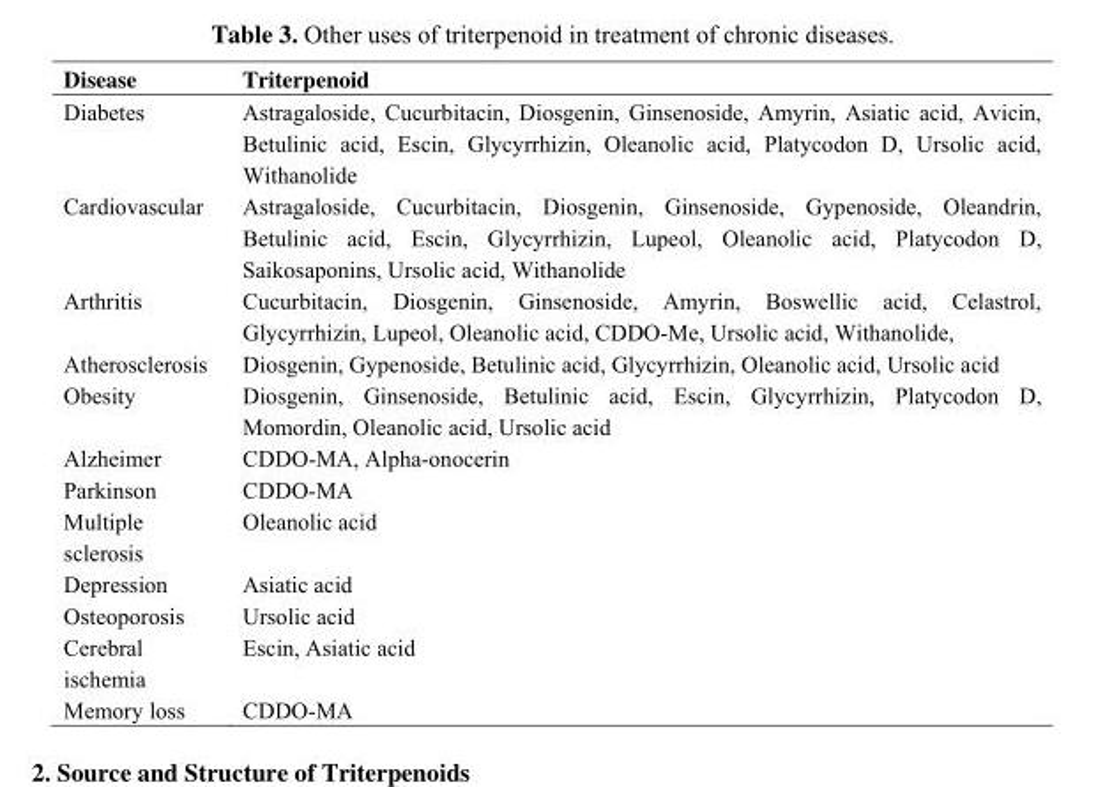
<table><thead><tr><td>Disease</td><td>Triterpenoid</td></tr></thead><tbody><tr><td>Diabetes</td><td>Astragaloside, Cucurbitacin, Diosgenin, Ginsenoside, Amyrin, Asiatic acid, Avicin, Betulinic acid, Escin, Glycyrrhizin, Oleanolic acid, Platycodon D, Ursolic acid, Withanolide</td></tr><tr><td>Cardiovascular</td><td>Astragaloside, Cucurbitacin, Diosgenin, Ginsenoside, Gypenoside, Oleandrin, Betulinic acid, Escin, Glycyrrhizin, Lupeol, Oleanolic acid, Platycodon D, Saikosaponins, Ursolic acid, Withanolide</td></tr><tr><td>Arthritis</td><td>Cucurbitacin, Diosgenin, Ginsenoside, Amyrin, Boswellic acid, Celastrol, Glycyrrhizin, Lupeol, Oleanolic acid, CDDO-Me, Ursolic acid, Withanolide,</td></tr><tr><td>Atherosclerosis</td><td>Diosgenin, Gypenoside, Betulinic acid, Glycyrrhizin, Oleanolic acid, Ursolic acid</td></tr><tr><td>Obesity</td><td>Diosgenin, Ginsenoside, Betulinic acid, Escin, Glycyrrhizin, Platycodon D, Momordin, Oleanolic acid, Ursolic acid</td></tr><tr><td>Alzheimer</td><td>CDDO-MA, Alpha-onocerin</td></tr><tr><td>Parkinson</td><td>CDDO-MA</td></tr><tr><td>Multiple sclerosis</td><td>Oleanolic acid</td></tr><tr><td>Depression</td><td>Asiatic acid</td></tr><tr><td>Osteoporosis</td><td>Ursolic acid</td></tr><tr><td>Cerebral ischemia</td><td>Escin, Asiatic acid</td></tr><tr><td>Memory loss</td><td>CDDO-MA</td></tr></tbody></table>